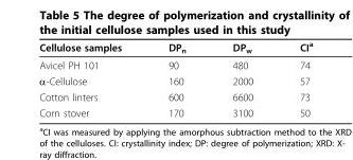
<table><thead><tr><td>Cellulose samples</td><td>DP<sub>n</sub></td><td>DP<sub>w</sub></td><td>CI<sup>a</sup></td></tr></thead><tbody><tr><td>Avicel PH 101</td><td>90</td><td>480</td><td>74</td></tr><tr><td>α-Cellulose</td><td>160</td><td>2000</td><td>57</td></tr><tr><td>Cotton linters</td><td>600</td><td>6600</td><td>73</td></tr><tr><td>Corn stover</td><td>170</td><td>3100</td><td>50</td></tr></tbody></table>